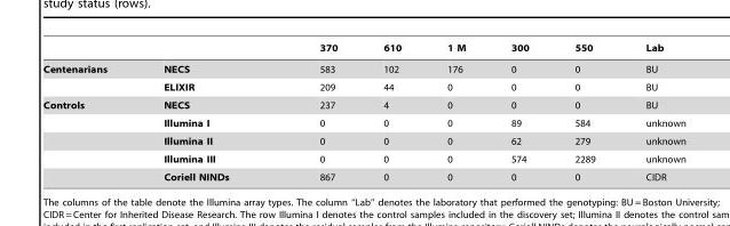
<table><thead><tr><td></td><td></td><td>370</td><td>610</td><td>1 M</td><td>300</td><td>550</td><td>Lab</td></tr></thead><tbody><tr><td rowspan="2">Centenarians</td><td>NECS</td><td>583</td><td>102</td><td>176</td><td>0</td><td>0</td><td>BU</td></tr><tr><td>ELIXIR</td><td>209</td><td>44</td><td>0</td><td>0</td><td>0</td><td>BU</td></tr><tr><td rowspan="5">Controls</td><td>NECS</td><td>237</td><td>4</td><td>0</td><td>0</td><td>0</td><td>BU</td></tr><tr><td>Illumina I</td><td>0</td><td>0</td><td>0</td><td>89</td><td>584</td><td>unknown</td></tr><tr><td>Illumina II</td><td>0</td><td>0</td><td>0</td><td>62</td><td>279</td><td>unknown</td></tr><tr><td>Illumina III</td><td>0</td><td>0</td><td>0</td><td>574</td><td>2289</td><td>unknown</td></tr><tr><td>Coriell NINDs</td><td>867</td><td>0</td><td>0</td><td>0</td><td>0</td><td>CIDR</td></tr></tbody></table>